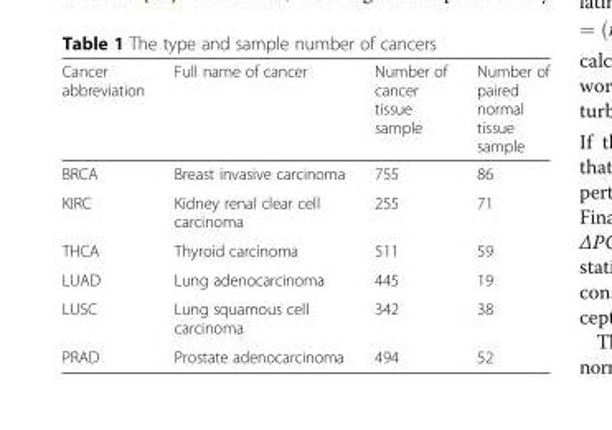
<table><thead><tr><td>Cancer abbreviation</td><td>Full name of cancer</td><td>Number of cancer tissue sample</td><td>Number of paired normal tissue sample</td></tr></thead><tbody><tr><td>BRCA</td><td>Breast invasive carcinoma</td><td>755</td><td>86</td></tr><tr><td>KIRC</td><td>Kidney renal clear cell carcinoma</td><td>255</td><td>71</td></tr><tr><td>THCA</td><td>Thyroid carcinoma</td><td>511</td><td>59</td></tr><tr><td>LUAD</td><td>Lung adenocarcinoma</td><td>445</td><td>19</td></tr><tr><td>LUSC</td><td>Lung squamous cell carcinoma</td><td>342</td><td>38</td></tr><tr><td>PRAD</td><td>Prostate adenocarcinoma</td><td>494</td><td>52</td></tr></tbody></table>